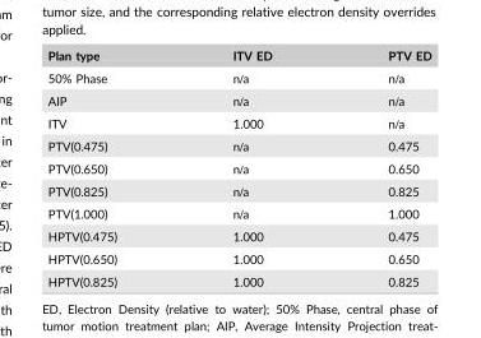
<table><thead><tr><td>Plan type</td><td>ITV ED</td><td>PTV ED</td></tr></thead><tbody><tr><td>50% Phase</td><td>n/a</td><td>n/a</td></tr><tr><td>AIP</td><td>n/a</td><td>n/a</td></tr><tr><td>ITV</td><td>1.000</td><td>n/a</td></tr><tr><td>PTV(0.475)</td><td>n/a</td><td>0.475</td></tr><tr><td>PTV(0.650)</td><td>n/a</td><td>0.650</td></tr><tr><td>PTV(0.825)</td><td>n/a</td><td>0.825</td></tr><tr><td>PTV(1.000)</td><td>n/a</td><td>1.000</td></tr><tr><td>HPTV(0.475)</td><td>1.000</td><td>0.475</td></tr><tr><td>HPTV(0.650)</td><td>1.000</td><td>0.650</td></tr><tr><td>HPTV(0.825)</td><td>1.000</td><td>0.825</td></tr></tbody></table>